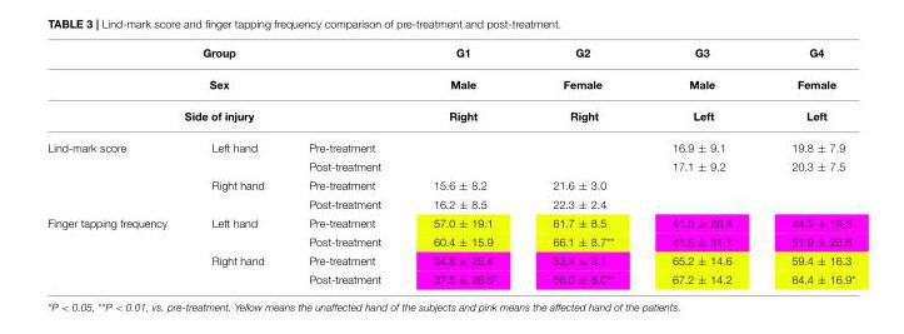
<table><thead><tr><td rowspan="3" colspan="3">Group Sex Side of injury</td><td rowspan="4">G1 Male Right</td><td rowspan="4">G2 Female Right</td><td rowspan="4">G3 Male Left 16.9 ± 9.1</td><td rowspan="4">G4 Female Left 19.8 ± 7.9</td></tr><tr></tr><tr></tr><tr><td>Lind-mark score</td><td>Left hand</td><td>Pre-treatment</td></tr></thead><tbody><tr><td></td><td></td><td>Post-treatment</td><td></td><td></td><td>17.1 ± 9.2</td><td>20.3 ± 7.5</td></tr><tr><td></td><td>Right hand</td><td>Pre-treatment</td><td>15.6 ± 8.2</td><td>21.6 ± 3.0</td><td></td><td></td></tr><tr><td></td><td></td><td>Post-treatment</td><td>16.2 ± 8.5</td><td>22.3 ± 2.4</td><td></td><td></td></tr><tr><td rowspan="4">Finger tapping frequency</td><td>Left hand</td><td>Pre-treatment</td><td>57.0 ± 19.1</td><td>61.7 ± 8.5</td><td>41.5 ± 28.4</td><td>44.5 ± 19.5</td></tr><tr><td></td><td>Post-treatment</td><td>60.4 ± 15.9</td><td>66.1 ± 8.7**</td><td>41.5 ± 31.7</td><td>51.9 ± 20.6</td></tr><tr><td>Right hand</td><td>Pre-treatment</td><td>34.8 ± 25.4</td><td>53.4 ± 9.1</td><td>65.2 ± 14.6</td><td>59.4 ± 16.3</td></tr><tr><td></td><td>Post-treatment</td><td>37.5 ± 26.5*</td><td>56.0 ± 8.0**</td><td>67.2 ± 14.2</td><td>64.4 ± 16.9*</td></tr></tbody></table>